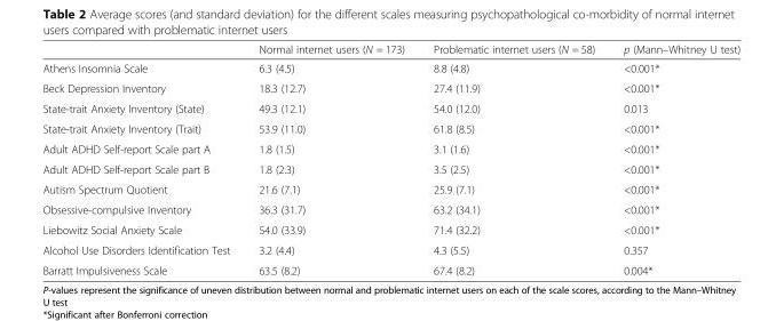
<table><thead><tr><td></td><td>Normal internet users (N = 173)</td><td>Problematic internet users (N = 58)</td><td>p (Mann–Whitney U test)</td></tr></thead><tbody><tr><td>Athens Insomnia Scale</td><td>6.3 (4.5)</td><td>8.8 (4.8)</td><td>&lt;0.001*</td></tr><tr><td>Beck Depression Inventory</td><td>18.3 (12.7)</td><td>27.4 (11.9)</td><td>&lt;0.001*</td></tr><tr><td>State-trait Anxiety Inventory (State)</td><td>49.3 (12.1)</td><td>54.0 (12.0)</td><td>0.013</td></tr><tr><td>State-trait Anxiety Inventory (Trait)</td><td>53.9 (11.0)</td><td>61.8 (8.5)</td><td>&lt;0.001*</td></tr><tr><td>Adult ADHD Self-report Scale part A</td><td>1.8 (1.5)</td><td>3.1 (1.6)</td><td>&lt;0.001*</td></tr><tr><td>Adult ADHD Self-report Scale part B</td><td>1.8 (2.3)</td><td>3.5 (2.5)</td><td>&lt;0.001*</td></tr><tr><td>Autism Spectrum Quotient</td><td>21.6 (7.1)</td><td>25.9 (7.1)</td><td>&lt;0.001*</td></tr><tr><td>Obsessive-compulsive Inventory</td><td>36.3 (31.7)</td><td>63.2 (34.1)</td><td>&lt;0.001*</td></tr><tr><td>Liebowitz Social Anxiety Scale</td><td>54.0 (33.9)</td><td>71.4 (32.2)</td><td>&lt;0.001*</td></tr><tr><td>Alcohol Use Disorders Identification Test</td><td>3.2 (4.4)</td><td>4.3 (5.5)</td><td>0.357</td></tr><tr><td>Barratt Impulsiveness Scale</td><td>63.5 (8.2)</td><td>67.4 (8.2)</td><td>0.004*</td></tr></tbody></table>